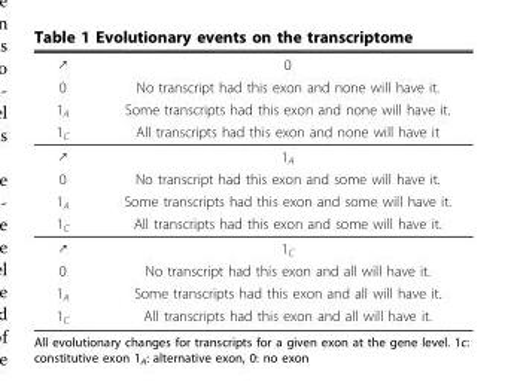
<table><tbody><tr><td>↗</td><td>0</td></tr><tr><td>0</td><td>No transcript had this exon and none will have it.</td></tr><tr><td>1<sub>A</sub></td><td>Some transcripts had this exon and none will have it.</td></tr><tr><td>1<sub>C</sub></td><td>All transcripts had this exon and none will have it</td></tr><tr><td>↗</td><td>1<sub>A</sub></td></tr><tr><td>0</td><td>No transcript had this exon and some will have it.</td></tr><tr><td>1<sub>A</sub></td><td>Some transcripts had this exon and some will have it.</td></tr><tr><td>1<sub>C</sub></td><td>All transcripts had this exon and some will have it.</td></tr><tr><td>↗</td><td>1<sub>C</sub></td></tr><tr><td>0</td><td>No transcript had this exon and all will have it.</td></tr><tr><td>1<sub>A</sub></td><td>Some transcripts had this exon and all will have it.</td></tr><tr><td>1<sub>C</sub></td><td>All transcripts had this exon and all will have it.</td></tr></tbody></table>